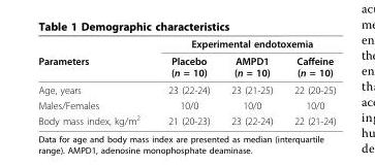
<table><thead><tr><td rowspan="2">Parameters</td><td colspan="3">Experimental endotoxemia</td></tr><tr><td>Placebo (n = 10)</td><td>AMPD1 (n = 10)</td><td>Caffeine (n = 10)</td></tr></thead><tbody><tr><td>Age, years</td><td>23 (22-24)</td><td>23 (21-25)</td><td>22 (20-25)</td></tr><tr><td>Males/Females</td><td>10/0</td><td>10/0</td><td>10/0</td></tr><tr><td>Body mass index, kg/m<sup>2</sup></td><td>21 (20-23)</td><td>23 (22-24)</td><td>22 (21-24)</td></tr></tbody></table>